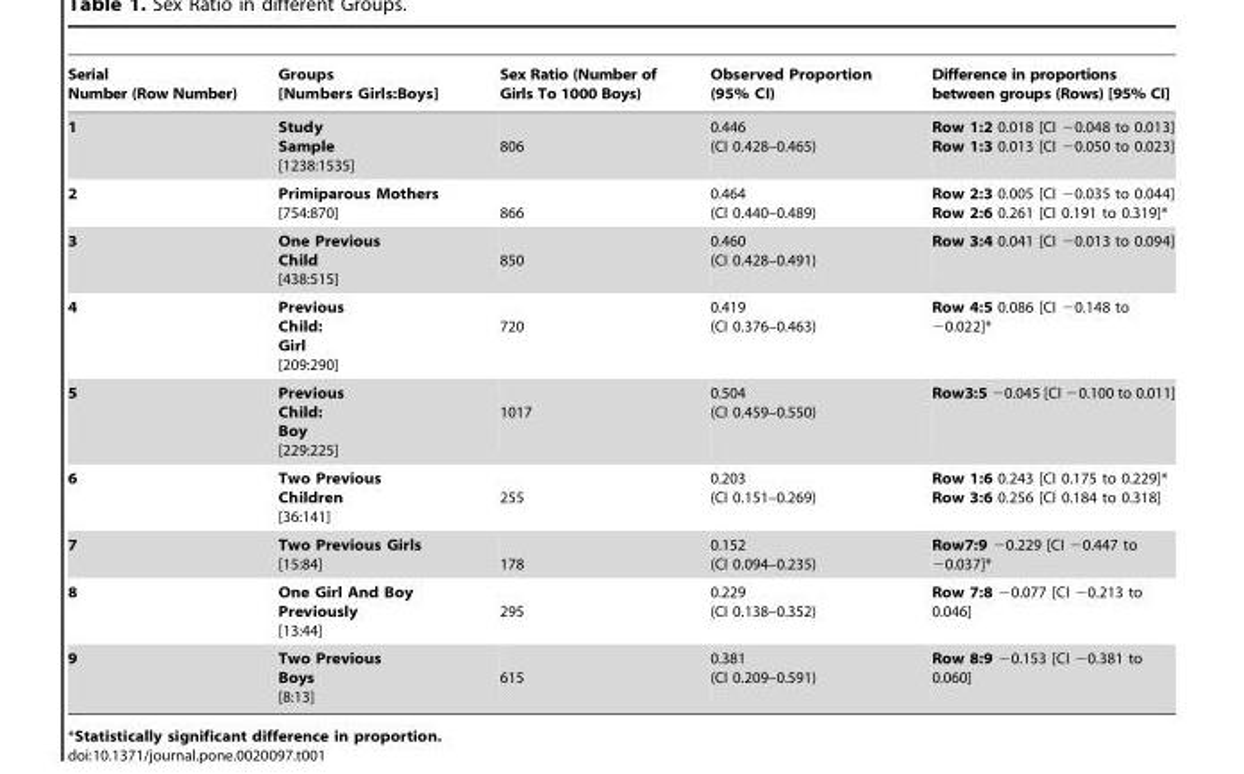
<table><thead><tr><td>Serial Number (Row Number)</td><td>Groups [Numbers Girls:Boys]</td><td>Sex Ratio (Number of Girls To 1000 Boys)</td><td>Observed Proportion (95% CI)</td><td>Difference in proportions between groups (Rows) [95% CI]</td></tr></thead><tbody><tr><td>1</td><td>Study Sample [1238:1535]</td><td>806</td><td>0.446 (CI 0.428–0.465)</td><td>Row 1:2 0.018 [CI −0.048 to 0.013] Row 1:3 0.013 [CI −0.050 to 0.023]</td></tr><tr><td>2</td><td>Primiparous Mothers [754:870]</td><td>866</td><td>0.464 (CI 0.440–0.489)</td><td>Row 2:3 0.005 [CI −0.035 to 0.044] Row 2:6 0.261 [CI 0.191 to 0.319]*</td></tr><tr><td>3</td><td>One Previous Child [438:515]</td><td>850</td><td>0.460 (CI 0.428–0.491)</td><td>Row 3:4 0.041 [CI −0.013 to 0.094]</td></tr><tr><td>4</td><td>Previous Child: Girl [209:290]</td><td>720</td><td>0.419 (CI 0.376–0.463)</td><td>Row 4:5 0.086 [CI −0.148 to −0.022]*</td></tr><tr><td>5</td><td>Previous Child: Boy [229:225]</td><td>1017</td><td>0.504 (CI 0.459–0.550)</td><td>Row3:5 −0.045 [CI −0.100 to 0.011]</td></tr><tr><td>6</td><td>Two Previous Children [36:141]</td><td>255</td><td>0.203 (CI 0.151–0.269)</td><td>Row 1:6 0.243 [CI 0.175 to 0.229]* Row 3:6 0.256 [CI 0.184 to 0.318]</td></tr><tr><td>7</td><td>Two Previous Girls [15:84]</td><td>178</td><td>0.152 (CI 0.094–0.235)</td><td>Row7:9 −0.229 [CI −0.447 to −0.037]*</td></tr><tr><td>8</td><td>One Girl And Boy Previously [13:44]</td><td>295</td><td>0.229 (CI 0.138–0.352)</td><td>Row 7:8 −0.077 [CI −0.213 to 0.046]</td></tr><tr><td>9</td><td>Two Previous Boys [8:13]</td><td>615</td><td>0.381 (CI 0.209–0.591)</td><td>Row 8:9 −0.153 [CI −0.381 to 0.060]</td></tr></tbody></table>